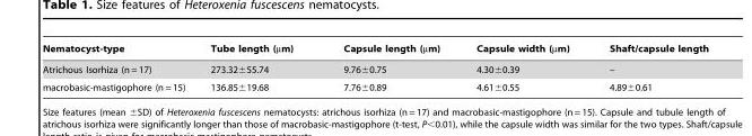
<table><thead><tr><td>Nematocyst-type</td><td>Tube length (µm)</td><td>Capsule length (µm)</td><td>Capsule width (µm)</td><td>Shaft/capsule length</td></tr></thead><tbody><tr><td>Atrichous Isorhiza (n = 17)</td><td>273.32±55.74</td><td>9.76±0.75</td><td>4.30±0.39</td><td>–</td></tr><tr><td>macrobasic-mastigophore (n = 15)</td><td>136.85±19.68</td><td>7.76±0.89</td><td>4.61±0.55</td><td>4.89±0.61</td></tr></tbody></table>